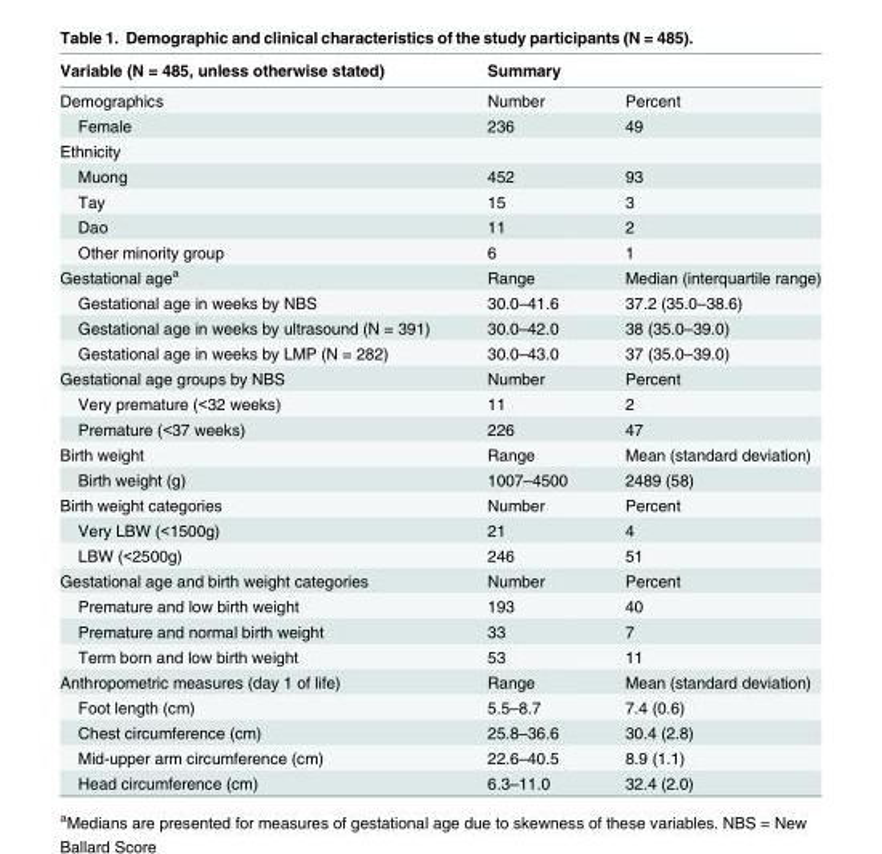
<table><thead><tr><td rowspan="2">Variable (N = 485, unless otherwise stated) Demographics</td><td colspan="2">Summary</td></tr><tr><td>Number</td><td>Percent</td></tr></thead><tbody><tr><td>Female</td><td>236</td><td>49</td></tr><tr><td colspan="3">Ethnicity</td></tr><tr><td>Muong</td><td>452</td><td>93</td></tr><tr><td>Tay</td><td>15</td><td>3</td></tr><tr><td>Dao</td><td>11</td><td>2</td></tr><tr><td>Other minority group</td><td>6</td><td>1</td></tr><tr><td>Gestational age<sup>a</sup></td><td>Range</td><td>Median (interquartile range)</td></tr><tr><td>Gestational age in weeks by NBS</td><td>30.0–41.6</td><td>37.2 (35.0–38.6)</td></tr><tr><td>Gestational age in weeks by ultrasound (N = 391)</td><td>30.0–42.0</td><td>38 (35.0–39.0)</td></tr><tr><td>Gestational age in weeks by LMP (N = 282)</td><td>30.0–43.0</td><td>37 (35.0–39.0)</td></tr><tr><td>Gestational age groups by NBS</td><td>Number</td><td>Percent</td></tr><tr><td>Very premature (&lt;32 weeks)</td><td>11</td><td>2</td></tr><tr><td>Premature (&lt;37 weeks)</td><td>226</td><td>47</td></tr><tr><td>Birth weight</td><td>Range</td><td>Mean (standard deviation)</td></tr><tr><td>Birth weight (g)</td><td>1007–4500</td><td>2489 (58)</td></tr><tr><td>Birth weight categories</td><td>Number</td><td>Percent</td></tr><tr><td>Very LBW (&lt;1500g)</td><td>21</td><td>4</td></tr><tr><td>LBW (&lt;2500g)</td><td>246</td><td>51</td></tr><tr><td>Gestational age and birth weight categories</td><td>Number</td><td>Percent</td></tr><tr><td>Premature and low birth weight</td><td>193</td><td>40</td></tr><tr><td>Premature and normal birth weight</td><td>33</td><td>7</td></tr><tr><td>Term born and low birth weight</td><td>53</td><td>11</td></tr><tr><td>Anthropometric measures (day 1 of life)</td><td>Range</td><td>Mean (standard deviation)</td></tr><tr><td>Foot length (cm)</td><td>5.5–8.7</td><td>7.4 (0.6)</td></tr><tr><td>Chest circumference (cm)</td><td>25.8–36.6</td><td>30.4 (2.8)</td></tr><tr><td>Mid-upper arm circumference (cm)</td><td>22.6–40.5</td><td>8.9 (1.1)</td></tr><tr><td>Head circumference (cm)</td><td>6.3–11.0</td><td>32.4 (2.0)</td></tr></tbody></table>